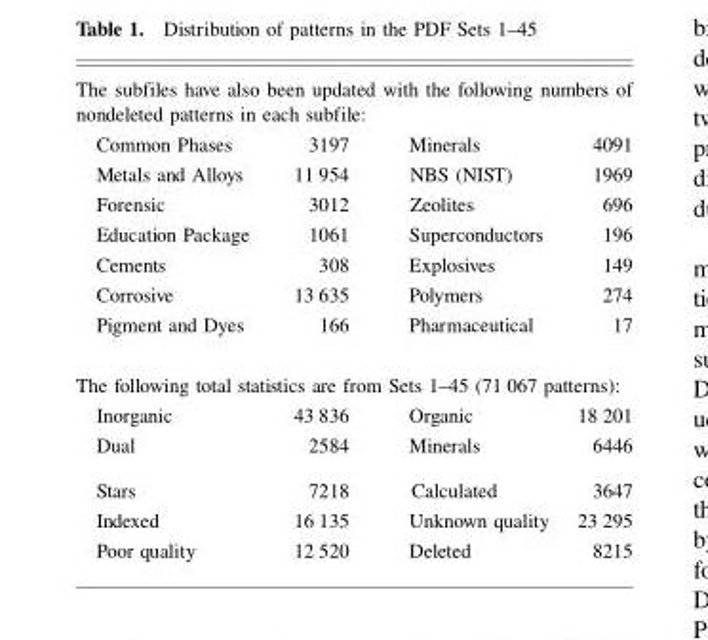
<table><tbody><tr><td colspan="4">The subfiles have also been updated with the following numbers of nondeleted patterns in each subfile:</td></tr><tr><td>Common Phases</td><td>3197</td><td>Minerals</td><td>4091</td></tr><tr><td>Metals and Alloys</td><td>11 954</td><td>NBS (NIST)</td><td>1969</td></tr><tr><td>Forensic</td><td>3012</td><td>Zeolites</td><td>696</td></tr><tr><td>Education Package</td><td>1061</td><td>Superconductors</td><td>196</td></tr><tr><td>Cements</td><td>308</td><td>Explosives</td><td>149</td></tr><tr><td>Corrosive</td><td>13 635</td><td>Polymers</td><td>274</td></tr><tr><td>Pigment and Dyes</td><td>166</td><td>Pharmaceutical</td><td>17</td></tr><tr><td colspan="4">The following total statistics are from Sets 1–45 (71 067 patterns):</td></tr><tr><td>Inorganic</td><td>43 836</td><td>Organic</td><td>18 201</td></tr><tr><td>Dual</td><td>2584</td><td>Minerals</td><td>6446</td></tr><tr><td>Stars</td><td>7218</td><td>Calculated</td><td>3647</td></tr><tr><td>Indexed</td><td>16 135</td><td>Unknown quality</td><td>23 295</td></tr><tr><td>Poor quality</td><td>12 520</td><td>Deleted</td><td>8215</td></tr></tbody></table>